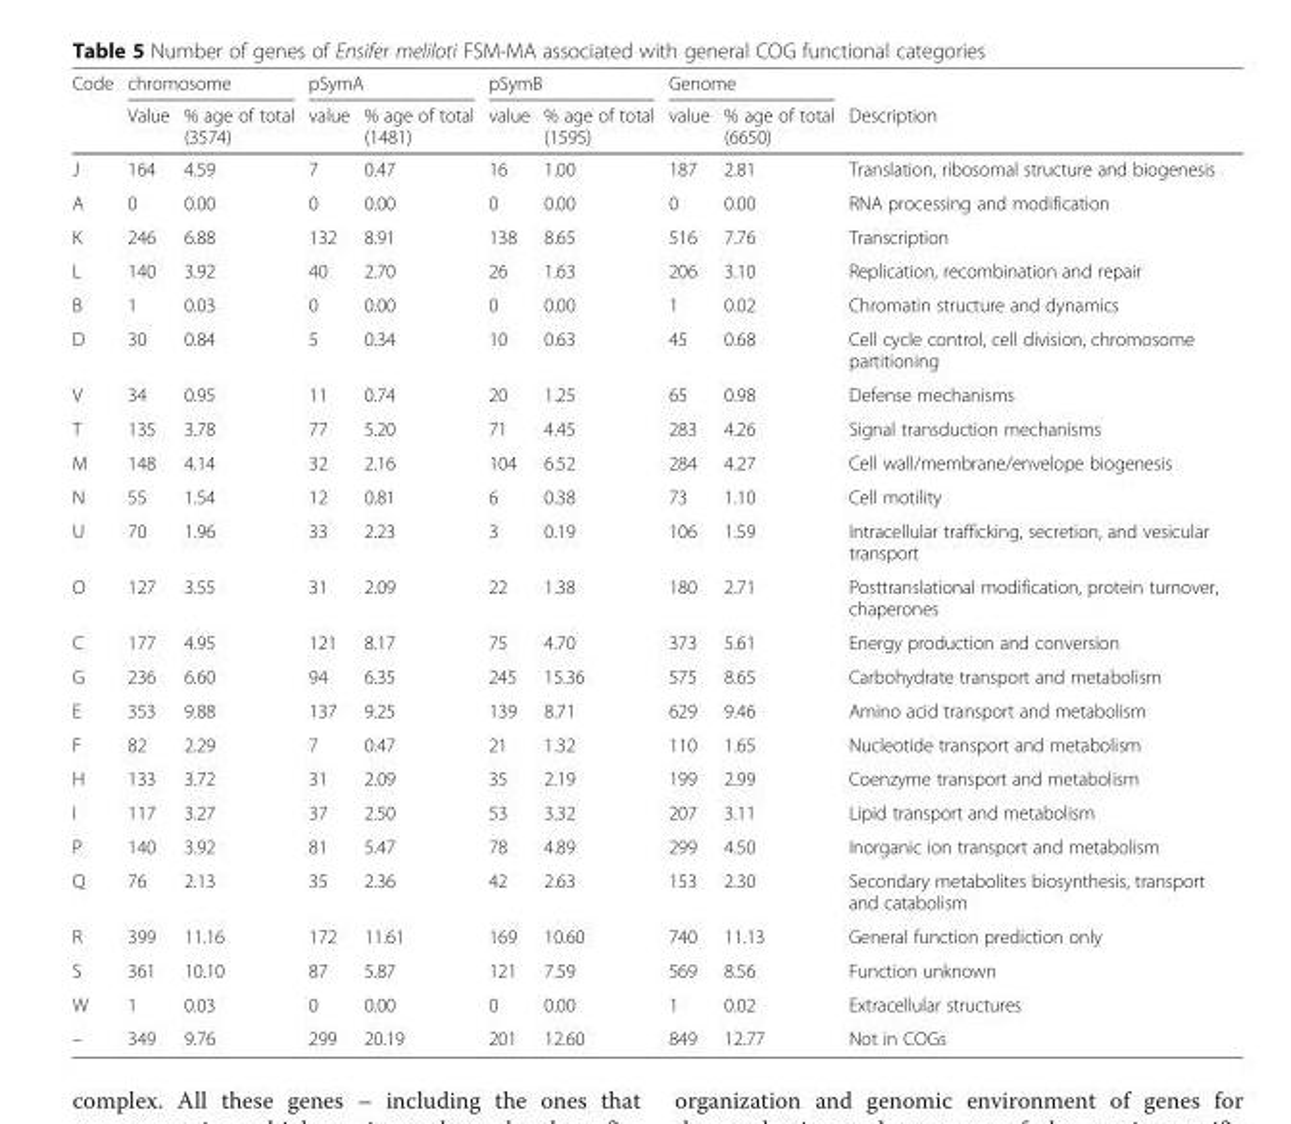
<table><thead><tr><td rowspan="2">Code</td><td colspan="2">chromosome</td><td colspan="2">pSymA</td><td colspan="2">pSymB</td><td colspan="2">Genome</td><td rowspan="2">Description</td></tr><tr><td>Value</td><td>% age of total (3574)</td><td>value</td><td>% age of total (1481)</td><td>value</td><td>% age of total (1595)</td><td>value</td><td>% age of total (6650)</td></tr></thead><tbody><tr><td>J</td><td>164</td><td>4.59</td><td>7</td><td>0.47</td><td>16</td><td>1.00</td><td>187</td><td>2.81</td><td>Translation, ribosomal structure and biogenesis</td></tr><tr><td>A</td><td>0</td><td>0.00</td><td>0</td><td>0.00</td><td>0</td><td>0.00</td><td>0</td><td>0.00</td><td>RNA processing and modification</td></tr><tr><td>K</td><td>246</td><td>6.88</td><td>132</td><td>8.91</td><td>138</td><td>8.65</td><td>516</td><td>7.76</td><td>Transcription</td></tr><tr><td>L</td><td>140</td><td>3.92</td><td>40</td><td>2.70</td><td>26</td><td>1.63</td><td>206</td><td>3.10</td><td>Replication, recombination and repair</td></tr><tr><td>B</td><td>1</td><td>0.03</td><td>0</td><td>0.00</td><td>0</td><td>0.00</td><td>1</td><td>0.02</td><td>Chromatin structure and dynamics</td></tr><tr><td>D</td><td>30</td><td>0.84</td><td>5</td><td>0.34</td><td>10</td><td>0.63</td><td>45</td><td>0.68</td><td>Cell cycle control, cell division, chromosome partitioning</td></tr><tr><td>V</td><td>34</td><td>0.95</td><td>11</td><td>0.74</td><td>20</td><td>1.25</td><td>65</td><td>0.98</td><td>Defense mechanisms</td></tr><tr><td>T</td><td>135</td><td>3.78</td><td>77</td><td>5.20</td><td>71</td><td>4.45</td><td>283</td><td>4.26</td><td>Signal transduction mechanisms</td></tr><tr><td>M</td><td>148</td><td>4.14</td><td>32</td><td>2.16</td><td>104</td><td>6.52</td><td>284</td><td>4.27</td><td>Cell wall/membrane/envelope biogenesis</td></tr><tr><td>N</td><td>55</td><td>1.54</td><td>12</td><td>0.81</td><td>6</td><td>0.38</td><td>73</td><td>1.10</td><td>Cell motility</td></tr><tr><td>U</td><td>70</td><td>1.96</td><td>33</td><td>2.23</td><td>3</td><td>0.19</td><td>106</td><td>1.59</td><td>Intracellular trafficking, secretion, and vesicular transport</td></tr><tr><td>O</td><td>127</td><td>3.55</td><td>31</td><td>2.09</td><td>22</td><td>1.38</td><td>180</td><td>2.71</td><td>Posttranslational modification, protein turnover, chaperones</td></tr><tr><td>C</td><td>177</td><td>4.95</td><td>121</td><td>8.17</td><td>75</td><td>4.70</td><td>373</td><td>5.61</td><td>Energy production and conversion</td></tr><tr><td>G</td><td>236</td><td>6.60</td><td>94</td><td>6.35</td><td>245</td><td>15.36</td><td>575</td><td>8.65</td><td>Carbohydrate transport and metabolism</td></tr><tr><td>E</td><td>353</td><td>9.88</td><td>137</td><td>9.25</td><td>139</td><td>8.71</td><td>629</td><td>9.46</td><td>Amino acid transport and metabolism</td></tr><tr><td>F</td><td>82</td><td>2.29</td><td>7</td><td>0.47</td><td>21</td><td>1.32</td><td>110</td><td>1.65</td><td>Nucleotide transport and metabolism</td></tr><tr><td>H</td><td>133</td><td>3.72</td><td>31</td><td>2.09</td><td>35</td><td>2.19</td><td>199</td><td>2.99</td><td>Coenzyme transport and metabolism</td></tr><tr><td>I</td><td>117</td><td>3.27</td><td>37</td><td>2.50</td><td>53</td><td>3.32</td><td>207</td><td>3.11</td><td>Lipid transport and metabolism</td></tr><tr><td>P</td><td>140</td><td>3.92</td><td>81</td><td>5.47</td><td>78</td><td>4.89</td><td>299</td><td>4.50</td><td>Inorganic ion transport and metabolism</td></tr><tr><td>Q</td><td>76</td><td>2.13</td><td>35</td><td>2.36</td><td>42</td><td>2.63</td><td>153</td><td>2.30</td><td>Secondary metabolites biosynthesis, transport and catabolism</td></tr><tr><td>R</td><td>399</td><td>11.16</td><td>172</td><td>11.61</td><td>169</td><td>10.60</td><td>740</td><td>11.13</td><td>General function prediction only</td></tr><tr><td>S</td><td>361</td><td>10.10</td><td>87</td><td>5.87</td><td>121</td><td>7.59</td><td>569</td><td>8.56</td><td>Function unknown</td></tr><tr><td>W</td><td>1</td><td>0.03</td><td>0</td><td>0.00</td><td>0</td><td>0.00</td><td>1</td><td>0.02</td><td>Extracellular structures</td></tr><tr><td>–</td><td>349</td><td>9.76</td><td>299</td><td>20.19</td><td>201</td><td>12.60</td><td>849</td><td>12.77</td><td>Not in COGs</td></tr></tbody></table>